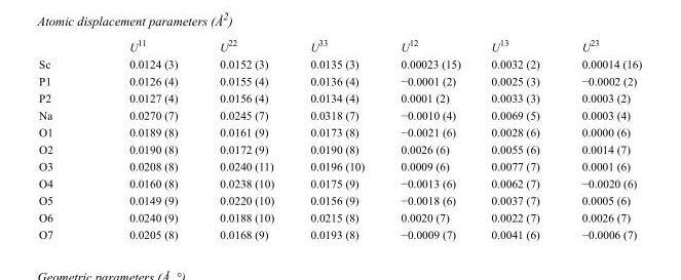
<table><thead><tr><td></td><td>U<sup>11</sup></td><td>U<sup>22</sup></td><td>U<sup>33</sup></td><td>U<sup>12</sup></td><td>U<sup>13</sup></td><td>U<sup>23</sup></td></tr></thead><tbody><tr><td>Sc</td><td>0.0124 (3)</td><td>0.0152 (3)</td><td>0.0135 (3)</td><td>0.00023 (15)</td><td>0.0032 (2)</td><td>0.00014 (16)</td></tr><tr><td>P1</td><td>0.0126 (4)</td><td>0.0155 (4)</td><td>0.0136 (4)</td><td>−0.0001 (2)</td><td>0.0025 (3)</td><td>−0.0002 (2)</td></tr><tr><td>P2</td><td>0.0127 (4)</td><td>0.0156 (4)</td><td>0.0134 (4)</td><td>0.0001 (2)</td><td>0.0033 (3)</td><td>0.0003 (2)</td></tr><tr><td>Na</td><td>0.0270 (7)</td><td>0.0245 (7)</td><td>0.0318 (7)</td><td>−0.0010 (4)</td><td>0.0069 (5)</td><td>0.0003 (4)</td></tr><tr><td>O1</td><td>0.0189 (8)</td><td>0.0161 (9)</td><td>0.0173 (8)</td><td>−0.0021 (6)</td><td>0.0028 (6)</td><td>0.0000 (6)</td></tr><tr><td>O2</td><td>0.0190 (8)</td><td>0.0172 (9)</td><td>0.0190 (8)</td><td>0.0026 (6)</td><td>0.0055 (6)</td><td>0.0014 (7)</td></tr><tr><td>O3</td><td>0.0208 (8)</td><td>0.0240 (11)</td><td>0.0196 (10)</td><td>0.0009 (6)</td><td>0.0077 (7)</td><td>0.0001 (6)</td></tr><tr><td>O4</td><td>0.0160 (8)</td><td>0.0238 (10)</td><td>0.0175 (9)</td><td>−0.0013 (6)</td><td>0.0062 (7)</td><td>−0.0020 (6)</td></tr><tr><td>O5</td><td>0.0149 (9)</td><td>0.0220 (10)</td><td>0.0156 (9)</td><td>−0.0018 (6)</td><td>0.0037 (7)</td><td>0.0005 (6)</td></tr><tr><td>O6</td><td>0.0240 (9)</td><td>0.0188 (10)</td><td>0.0215 (8)</td><td>0.0020 (7)</td><td>0.0022 (7)</td><td>0.0026 (7)</td></tr><tr><td>O7</td><td>0.0205 (8)</td><td>0.0168 (9)</td><td>0.0193 (8)</td><td>−0.0009 (7)</td><td>0.0041 (6)</td><td>−0.0006 (7)</td></tr></tbody></table>